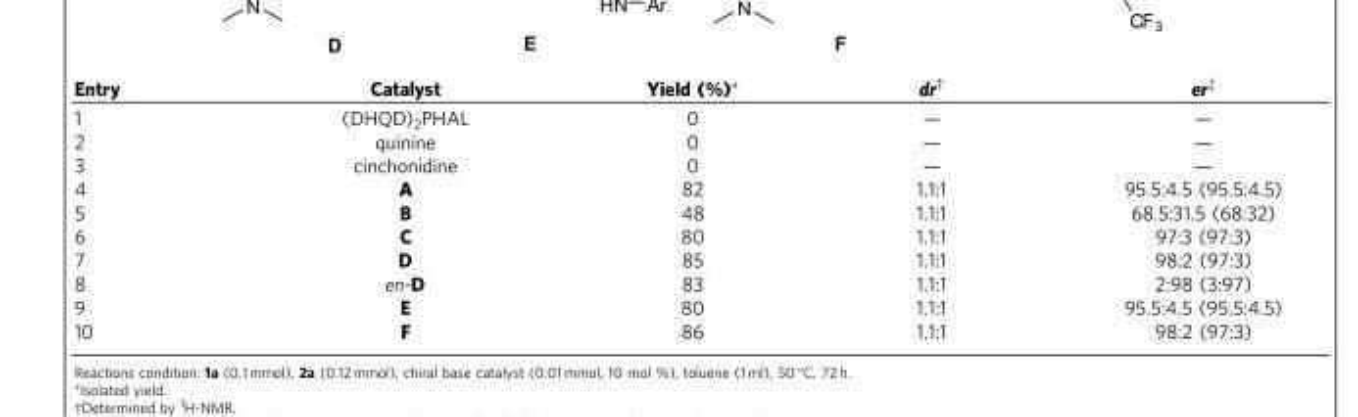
<table><thead><tr><td>Entry</td><td>Catalyst</td><td>Yield (%)*</td><td>dr†</td><td>er‡</td></tr></thead><tbody><tr><td>1</td><td>(DHQD)<sub>2</sub>PHAL</td><td>0</td><td>—</td><td>—</td></tr><tr><td>2</td><td>quinine</td><td>0</td><td>—</td><td>—</td></tr><tr><td>3</td><td>cinchonidine</td><td>0</td><td>—</td><td>—</td></tr><tr><td>4</td><td>A</td><td>82</td><td>1.1:1</td><td>95.5:4.5 (95.5:4.5)</td></tr><tr><td>5</td><td>B</td><td>48</td><td>1.1:1</td><td>68.5:31.5 (68:32)</td></tr><tr><td>6</td><td>C</td><td>80</td><td>1.1:1</td><td>97:3 (97:3)</td></tr><tr><td>7</td><td>D</td><td>85</td><td>1.1:1</td><td>98:2 (97:3)</td></tr><tr><td>8</td><td>en-D</td><td>83</td><td>1.1:1</td><td>2:98 (3:97)</td></tr><tr><td>9</td><td>E</td><td>80</td><td>1.1:1</td><td>95.5:4.5 (95.5:4.5)</td></tr><tr><td>10</td><td>F</td><td>86</td><td>1.1:1</td><td>98:2 (97:3)</td></tr></tbody></table>